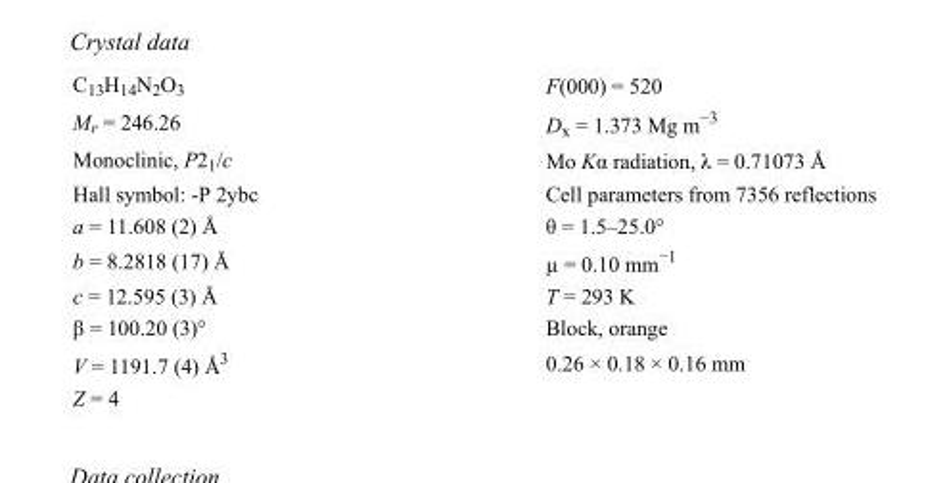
<table><tbody><tr><td>C<sub>13</sub>H<sub>14</sub>N<sub>2</sub>O<sub>3</sub></td><td>F(000) = 520</td></tr><tr><td>M<sub>r</sub> = 246.26</td><td>D<sub>x</sub> = 1.373 Mg m<sup>−3</sup></td></tr><tr><td>Monoclinic, P2<sub>1</sub>/c</td><td>Mo Kα radiation, λ = 0.71073 Å</td></tr><tr><td>Hall symbol: -P 2ybc</td><td>Cell parameters from 7356 reflections</td></tr><tr><td>a = 11.608 (2) Å</td><td>θ = 1.5–25.0°</td></tr><tr><td>b = 8.2818 (17) Å</td><td>µ = 0.10 mm<sup>−1</sup></td></tr><tr><td>c = 12.595 (3) Å</td><td>T = 293 K</td></tr><tr><td>β = 100.20 (3)°</td><td>Block, orange</td></tr><tr><td>V = 1191.7 (4) Å<sup>3</sup></td><td>0.26 × 0.18 × 0.16 mm</td></tr><tr><td>Z = 4</td><td></td></tr></tbody></table>